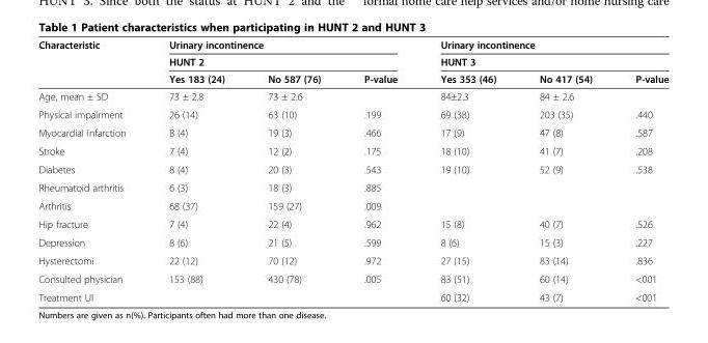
<table><thead><tr><td rowspan="3">Characteristic</td><td rowspan="2" colspan="3">Urinary incontinence HUNT 2</td><td rowspan="2" colspan="3">Urinary incontinence HUNT 3</td></tr><tr></tr><tr><td>Yes 183 (24)</td><td>No 587 (76)</td><td>P-value</td><td>Yes 353 (46)</td><td>No 417 (54)</td><td>P-value</td></tr></thead><tbody><tr><td>Age, mean ± SD</td><td>73 ± 2.8</td><td>73 ± 2.6</td><td></td><td>84±2.3</td><td>84 ± 2.6</td><td></td></tr><tr><td>Physical impairment</td><td>26 (14)</td><td>63 (10)</td><td>.199</td><td>69 (38)</td><td>203 (35)</td><td>.440</td></tr><tr><td>Myocardial infarction</td><td>8 (4)</td><td>19 (3)</td><td>.466</td><td>17 (9)</td><td>47 (8)</td><td>.587</td></tr><tr><td>Stroke</td><td>7 (4)</td><td>12 (2)</td><td>.175</td><td>18 (10)</td><td>41 (7)</td><td>.208</td></tr><tr><td>Diabetes</td><td>8 (4)</td><td>20 (3)</td><td>.543</td><td>19 (10)</td><td>52 (9)</td><td>.538</td></tr><tr><td>Rheumatoid arthritis</td><td>6 (3)</td><td>18 (3)</td><td>.885</td><td></td><td></td><td></td></tr><tr><td>Arthritis</td><td>68 (37)</td><td>159 (27)</td><td>.009</td><td></td><td></td><td></td></tr><tr><td>Hip fracture</td><td>7 (4)</td><td>22 (4)</td><td>.962</td><td>15 (8)</td><td>40 (7)</td><td>.526</td></tr><tr><td>Depression</td><td>8 (6)</td><td>21 (5)</td><td>.599</td><td>8 (6)</td><td>15 (3)</td><td>.227</td></tr><tr><td>Hysterectomi</td><td>22 (12)</td><td>70 (12)</td><td>.972</td><td>27 (15)</td><td>83 (14)</td><td>.836</td></tr><tr><td>Consulted physician</td><td>153 (88)</td><td>430 (78)</td><td>.005</td><td>83 (51)</td><td>60 (14)</td><td>&lt;001</td></tr><tr><td>Treatment UI</td><td></td><td></td><td></td><td>60 (32)</td><td>43 (7)</td><td>&lt;001</td></tr></tbody></table>